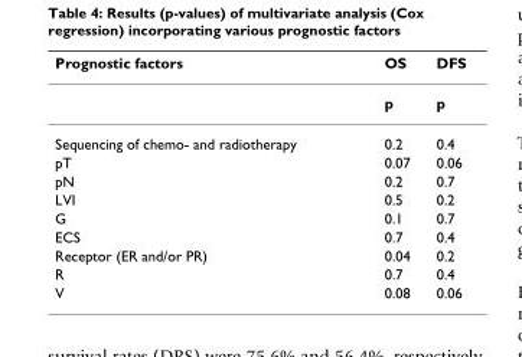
<table><thead><tr><td>Prognostic factors</td><td>OS</td><td>DFS</td></tr></thead><tbody><tr><td></td><td>p</td><td>p</td></tr><tr><td>Sequencing of chemo- and radiotherapy</td><td>0.2</td><td>0.4</td></tr><tr><td>pT</td><td>0.07</td><td>0.06</td></tr><tr><td>pN</td><td>0.2</td><td>0.7</td></tr><tr><td>LVI</td><td>0.5</td><td>0.2</td></tr><tr><td>G</td><td>0.1</td><td>0.7</td></tr><tr><td>ECS</td><td>0.7</td><td>0.4</td></tr><tr><td>Receptor (ER and/or PR)</td><td>0.04</td><td>0.2</td></tr><tr><td>R</td><td>0.7</td><td>0.4</td></tr><tr><td>V</td><td>0.08</td><td>0.06</td></tr></tbody></table>